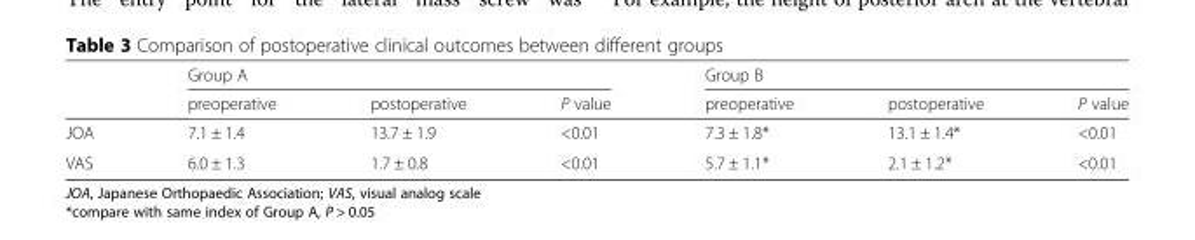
<table><thead><tr><td rowspan="2"></td><td colspan="3">Group A</td><td colspan="3">Group B</td></tr><tr><td>preoperative</td><td>postoperative</td><td>P value</td><td>preoperative</td><td>postoperative</td><td>P value</td></tr></thead><tbody><tr><td>JOA</td><td>7.1 ± 1.4</td><td>13.7 ± 1.9</td><td>&lt;0.01</td><td>7.3 ± 1.8*</td><td>13.1 ± 1.4*</td><td>&lt;0.01</td></tr><tr><td>VAS</td><td>6.0 ± 1.3</td><td>1.7 ± 0.8</td><td>&lt;0.01</td><td>5.7 ± 1.1*</td><td>2.1 ± 1.2*</td><td>&lt;0.01</td></tr></tbody></table>